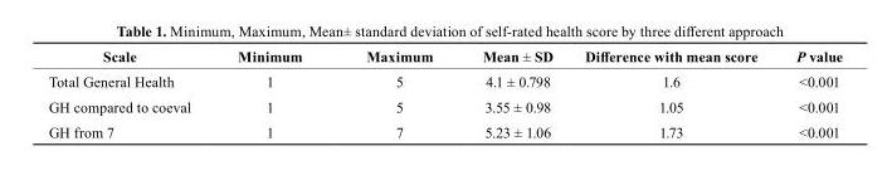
<table><thead><tr><td>scale</td><td>Minimum</td><td>Maximum</td><td>Mean ± sD</td><td>Difference with mean score</td><td>P value</td></tr></thead><tbody><tr><td>Total General Health</td><td>1</td><td>5</td><td>4.1 ± 0.798</td><td>1.6</td><td>&lt;0.001</td></tr><tr><td>GH compared to coeval</td><td>1</td><td>5</td><td>3.55 ± 0.98</td><td>1.05</td><td>&lt;0.001</td></tr><tr><td>GH from 7</td><td>1</td><td>7</td><td>5.23 ± 1.06</td><td>1.73</td><td>&lt;0.001</td></tr></tbody></table>